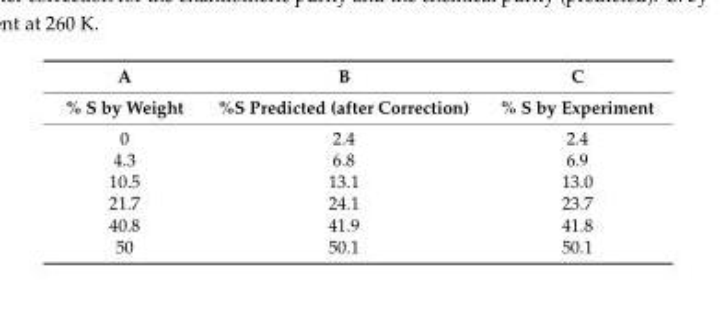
<table><thead><tr><td rowspan="2">A % S by Weight</td><td rowspan="2">B %S Predicted (after Correction)</td><td rowspan="2">C % S by Experiment</td></tr><tr></tr></thead><tbody><tr><td>0</td><td>2.4</td><td>2.4</td></tr><tr><td>4.3</td><td>6.8</td><td>6.9</td></tr><tr><td>10.5</td><td>13.1</td><td>13.0</td></tr><tr><td>21.7</td><td>24.1</td><td>23.7</td></tr><tr><td>40.8</td><td>41.9</td><td>41.8</td></tr><tr><td>50</td><td>50.1</td><td>50.1</td></tr></tbody></table>